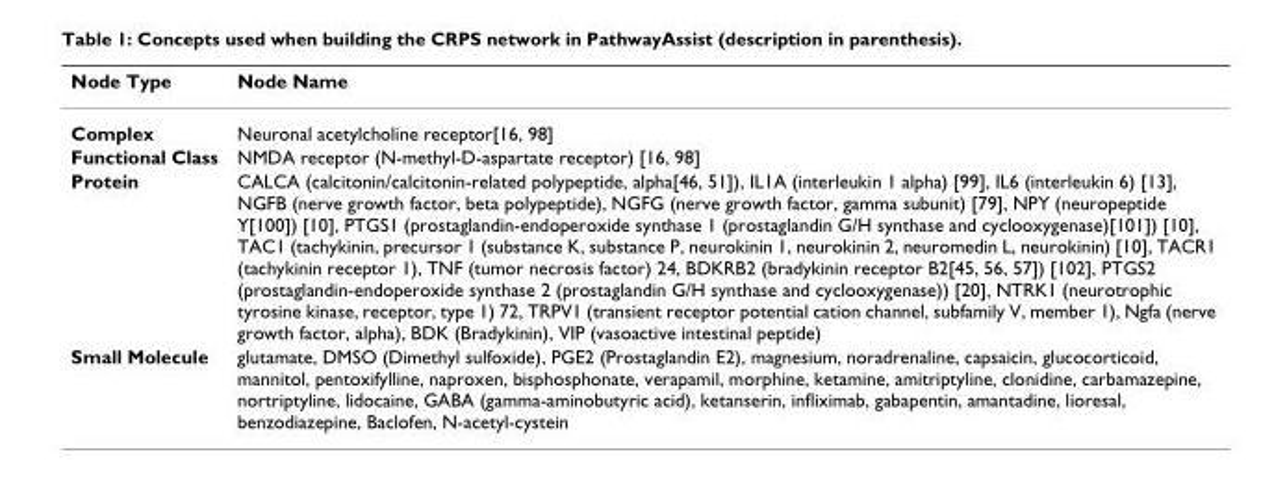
<table><thead><tr><td>Node Type</td><td>Node Name</td></tr></thead><tbody><tr><td>Complex</td><td>Neuronal acetylcholine receptor[16, 98]</td></tr><tr><td>Functional Class</td><td>NMDA receptor (N-methyl-D-aspartate receptor) [16, 98]</td></tr><tr><td>Protein</td><td>CALCA (calcitonin/calcitonin-related polypeptide, alpha[46, 51]), IL1A (interleukin 1 alpha) [99], IL6 (interleukin 6) [13], NGFB (nerve growth factor, beta polypeptide), NGFG (nerve growth factor, gamma subunit) [79], NPY (neuropeptide Y[100]) [10], PTGS1 (prostaglandin-endoperoxide synthase 1 (prostaglandin G/H synthase and cyclooxygenase)[101]) [10], TAC1 (tachykinin, precursor 1 (substance K, substance P, neurokinin 1, neurokinin 2, neuromedin L, neurokinin) [10], TACR1 (tachykinin receptor 1), TNF (tumor necrosis factor) 24, BDKRB2 (bradykinin receptor B2[45, 56, 57]) [102], PTGS2 (prostaglandin-endoperoxide synthase 2 (prostaglandin G/H synthase and cyclooxygenase)) [20], NTRK1 (neurotrophic tyrosine kinase, receptor, type 1) 72, TRPV1 (transient receptor potential cation channel, subfamily V, member 1), Ngfa (nerve growth factor, alpha), BDK (Bradykinin), VIP (vasoactive intestinal peptide)</td></tr><tr><td>Small Molecule</td><td>glutamate, DMSO (Dimethyl sulfoxide), PGE2 (Prostaglandin E2), magnesium, noradrenaline, capsaicin, glucocorticoid, mannitol, pentoxifylline, naproxen, bisphosphonate, verapamil, morphine, ketamine, amitriptyline, clonidine, carbamazepine, nortriptyline, lidocaine, GABA (gamma-aminobutyric acid), ketanserin, infliximab, gabapentin, amantadine, lioresal, benzodiazepine, Baclofen, N-acetyl-cystein</td></tr></tbody></table>